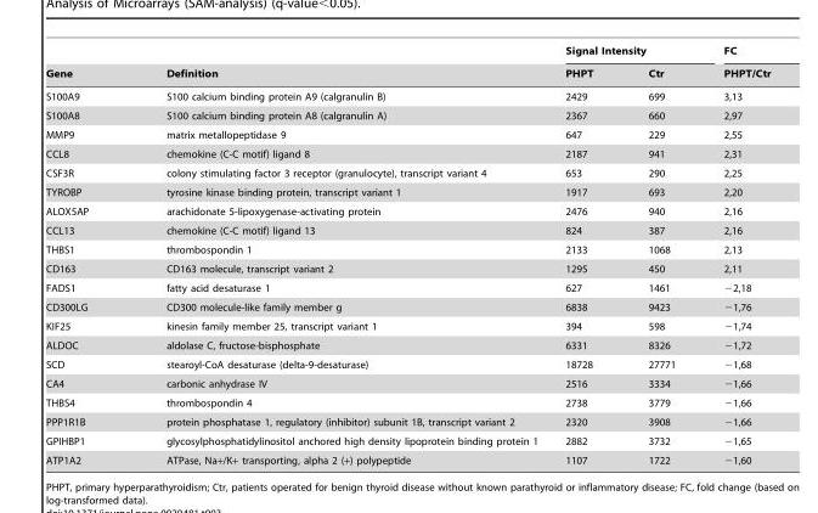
<table><thead><tr><td rowspan="2">Gene</td><td rowspan="2">Definition</td><td colspan="2">Signal Intensity</td><td rowspan="2">FC PHPT/Ctr</td></tr><tr><td>PHPT</td><td>Ctr</td></tr></thead><tbody><tr><td>S100A9</td><td>S100 calcium binding protein A9 (calgranulin B)</td><td>2429</td><td>699</td><td>3,13</td></tr><tr><td>S100A8</td><td>S100 calcium binding protein A8 (calgranulin A)</td><td>2367</td><td>660</td><td>2,97</td></tr><tr><td>MMP9</td><td>matrix metallopeptidase 9</td><td>647</td><td>229</td><td>2,55</td></tr><tr><td>CCL8</td><td>chemokine (C-C motif) ligand 8</td><td>2187</td><td>941</td><td>2,31</td></tr><tr><td>CSF3R</td><td>colony stimulating factor 3 receptor (granulocyte), transcript variant 4</td><td>653</td><td>290</td><td>2,25</td></tr><tr><td>TYROBP</td><td>tyrosine kinase binding protein, transcript variant 1</td><td>1917</td><td>693</td><td>2,20</td></tr><tr><td>ALOX5AP</td><td>arachidonate 5-lipoxygenase-activating protein</td><td>2476</td><td>940</td><td>2,16</td></tr><tr><td>CCL13</td><td>chemokine (C-C motif) ligand 13</td><td>824</td><td>387</td><td>2,16</td></tr><tr><td>THBS1</td><td>thrombospondin 1</td><td>2133</td><td>1068</td><td>2,13</td></tr><tr><td>CD163</td><td>CD163 molecule, transcript variant 2</td><td>1295</td><td>450</td><td>2,11</td></tr><tr><td>FADS1</td><td>fatty acid desaturase 1</td><td>627</td><td>1461</td><td>−2,18</td></tr><tr><td>CD300LG</td><td>CD300 molecule-like family member g</td><td>6838</td><td>9423</td><td>−1,76</td></tr><tr><td>KIF25</td><td>kinesin family member 25, transcript variant 1</td><td>394</td><td>598</td><td>−1,74</td></tr><tr><td>ALDOC</td><td>aldolase C, fructose-bisphosphate</td><td>6331</td><td>8326</td><td>−1,72</td></tr><tr><td>SCD</td><td>stearoyl-CoA desaturase (delta-9-desaturase)</td><td>18728</td><td>27771</td><td>−1,68</td></tr><tr><td>CA4</td><td>carbonic anhydrase IV</td><td>2516</td><td>3334</td><td>−1,66</td></tr><tr><td>THBS4</td><td>thrombospondin 4</td><td>2738</td><td>3779</td><td>−1,66</td></tr><tr><td>PPP1R1B</td><td>protein phosphatase 1, regulatory (inhibitor) subunit 1B, transcript variant 2</td><td>2320</td><td>3908</td><td>−1,66</td></tr><tr><td>GPIHBP1</td><td>glycosylphosphatidylinositol anchored high density lipoprotein binding protein 1</td><td>2882</td><td>3732</td><td>−1,65</td></tr><tr><td>ATP1A2</td><td>ATPase, Na+/K+ transporting, alpha 2 (+) polypeptide</td><td>1107</td><td>1722</td><td>−1,60</td></tr></tbody></table>